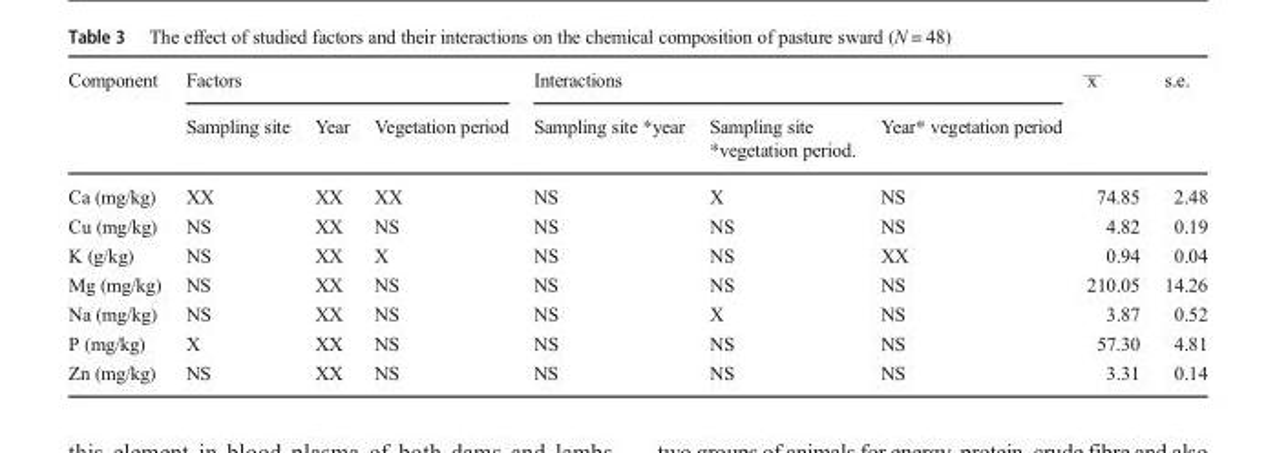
<table><thead><tr><td rowspan="2">Component</td><td colspan="3">Factors</td><td colspan="3">Interactions</td><td rowspan="2">x̅</td><td rowspan="2">s.e.</td></tr><tr><td>Sampling site</td><td>Year</td><td>Vegetation period</td><td>Sampling site *year</td><td>Sampling site *vegetation period.</td><td>Year* vegetation period</td></tr></thead><tbody><tr><td>Ca (mg/kg)</td><td>XX</td><td>XX</td><td>XX</td><td>NS</td><td>X</td><td>NS</td><td>74.85</td><td>2.48</td></tr><tr><td>Cu (mg/kg)</td><td>NS</td><td>XX</td><td>NS</td><td>NS</td><td>NS</td><td>NS</td><td>4.82</td><td>0.19</td></tr><tr><td>K (g/kg)</td><td>NS</td><td>XX</td><td>X</td><td>NS</td><td>NS</td><td>XX</td><td>0.94</td><td>0.04</td></tr><tr><td>Mg (mg/kg)</td><td>NS</td><td>XX</td><td>NS</td><td>NS</td><td>NS</td><td>NS</td><td>210.05</td><td>14.26</td></tr><tr><td>Na (mg/kg)</td><td>NS</td><td>XX</td><td>NS</td><td>NS</td><td>X</td><td>NS</td><td>3.87</td><td>0.52</td></tr><tr><td>P (mg/kg)</td><td>X</td><td>XX</td><td>NS</td><td>NS</td><td>NS</td><td>NS</td><td>57.30</td><td>4.81</td></tr><tr><td>Zn (mg/kg)</td><td>NS</td><td>XX</td><td>NS</td><td>NS</td><td>NS</td><td>NS</td><td>3.31</td><td>0.14</td></tr></tbody></table>